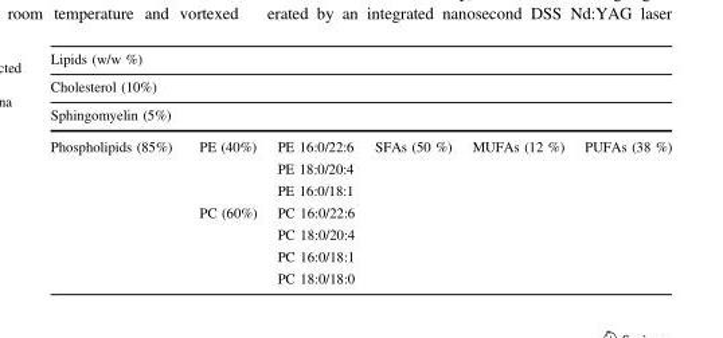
<table><thead><tr><td rowspan="3" colspan="6">Lipids (w/w %) Cholesterol (10%) Sphingomyelin (5%)</td></tr><tr></tr><tr></tr><tr><td>Phospholipids (85%)</td><td>PE (40%)</td><td>PE 16:0/22:6</td><td>SFAs (50 %)</td><td>MUFAs (12 %)</td><td>PUFAs (38 %)</td></tr></thead><tbody><tr><td></td><td></td><td>PE 18:0/20:4</td><td></td><td></td><td></td></tr><tr><td></td><td></td><td>PE 16:0/18:1</td><td></td><td></td><td></td></tr><tr><td></td><td>PC (60%)</td><td>PC 16:0/22:6</td><td></td><td></td><td></td></tr><tr><td></td><td></td><td>PC 18:0/20:4</td><td></td><td></td><td></td></tr><tr><td></td><td></td><td>PC 16:0/18:1</td><td></td><td></td><td></td></tr><tr><td></td><td></td><td>PC 18:0/18:0</td><td></td><td></td><td></td></tr></tbody></table>